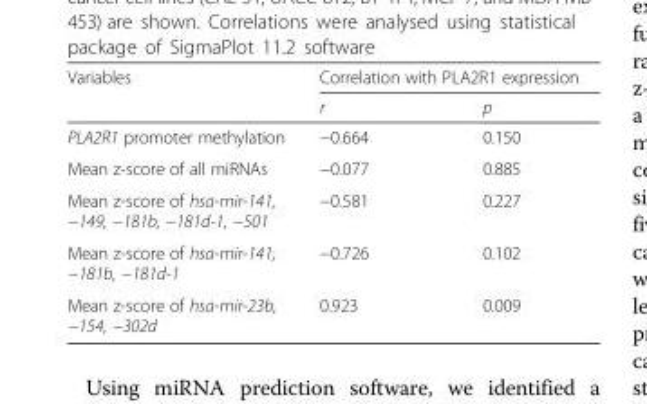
<table><thead><tr><td rowspan="2">Variables</td><td colspan="2">Correlation with PLA2R1 expression</td></tr><tr><td>r</td><td>p</td></tr></thead><tbody><tr><td>PLA2R1 promoter methylation</td><td>−0.664</td><td>0.150</td></tr><tr><td>Mean z-score of all miRNAs</td><td>−0.077</td><td>0.885</td></tr><tr><td>Mean z-score of hsa-mir-141, −149, −181b, −181d-1, −501</td><td>−0.581</td><td>0.227</td></tr><tr><td>Mean z-score of hsa-mir-141, −181b, −181d-1</td><td>−0.726</td><td>0.102</td></tr><tr><td>Mean z-score of hsa-mir-23b, −154, −302d</td><td>0.923</td><td>0.009</td></tr></tbody></table>